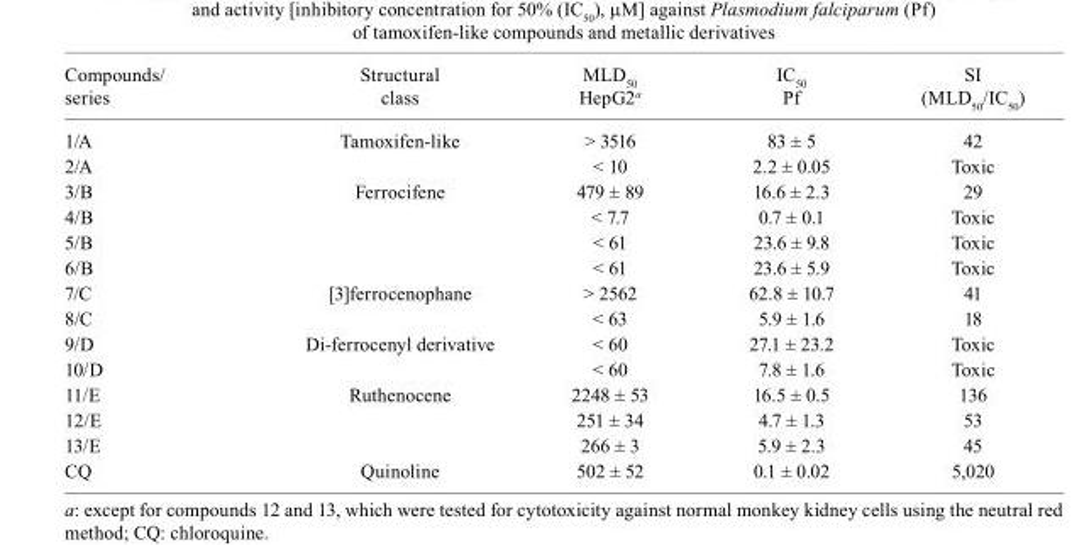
<table><thead><tr><td rowspan="2">Compounds/ series</td><td rowspan="2">Structural class</td><td rowspan="2">MLD<sub>50</sub> HepG2<sup>a</sup></td><td rowspan="2">IC<sub>50</sub> Pf</td><td rowspan="2">SI (MLD<sub>50</sub>/IC<sub>50</sub>)</td></tr><tr></tr></thead><tbody><tr><td>1/A</td><td>Tamoxifen-like</td><td>&gt; 3516</td><td>83 ± 5</td><td>42</td></tr><tr><td>2/A</td><td></td><td>&lt; 10</td><td>2.2 ± 0.05</td><td>Toxic</td></tr><tr><td>3/B</td><td>Ferrocifene</td><td>479 ± 89</td><td>16.6 ± 2.3</td><td>29</td></tr><tr><td>4/B</td><td></td><td>&lt; 7.7</td><td>0.7 ± 0.1</td><td>Toxic</td></tr><tr><td>5/B</td><td></td><td>&lt; 61</td><td>23.6 ± 9.8</td><td>Toxic</td></tr><tr><td>6/B</td><td></td><td>&lt; 61</td><td>23.6 ± 5.9</td><td>Toxic</td></tr><tr><td>7/C</td><td>[3]ferrocenophane</td><td>&gt; 2562</td><td>62.8 ± 10.7</td><td>41</td></tr><tr><td>8/C</td><td></td><td>&lt; 63</td><td>5.9 ± 1.6</td><td>18</td></tr><tr><td>9/D</td><td>Di-ferrocenyl derivative</td><td>&lt; 60</td><td>27.1 ± 23.2</td><td>Toxic</td></tr><tr><td>10/D</td><td></td><td>&lt; 60</td><td>7.8 ± 1.6</td><td>Toxic</td></tr><tr><td>11/E</td><td>Ruthenocene</td><td>2248 ± 53</td><td>16.5 ± 0.5</td><td>136</td></tr><tr><td>12/E</td><td></td><td>251 ± 34</td><td>4.7 ± 1.3</td><td>53</td></tr><tr><td>13/E</td><td></td><td>266 ± 3</td><td>5.9 ± 2.3</td><td>45</td></tr><tr><td>CQ</td><td>Quinoline</td><td>502 ± 52</td><td>0.1 ± 0.02</td><td>5,020</td></tr></tbody></table>